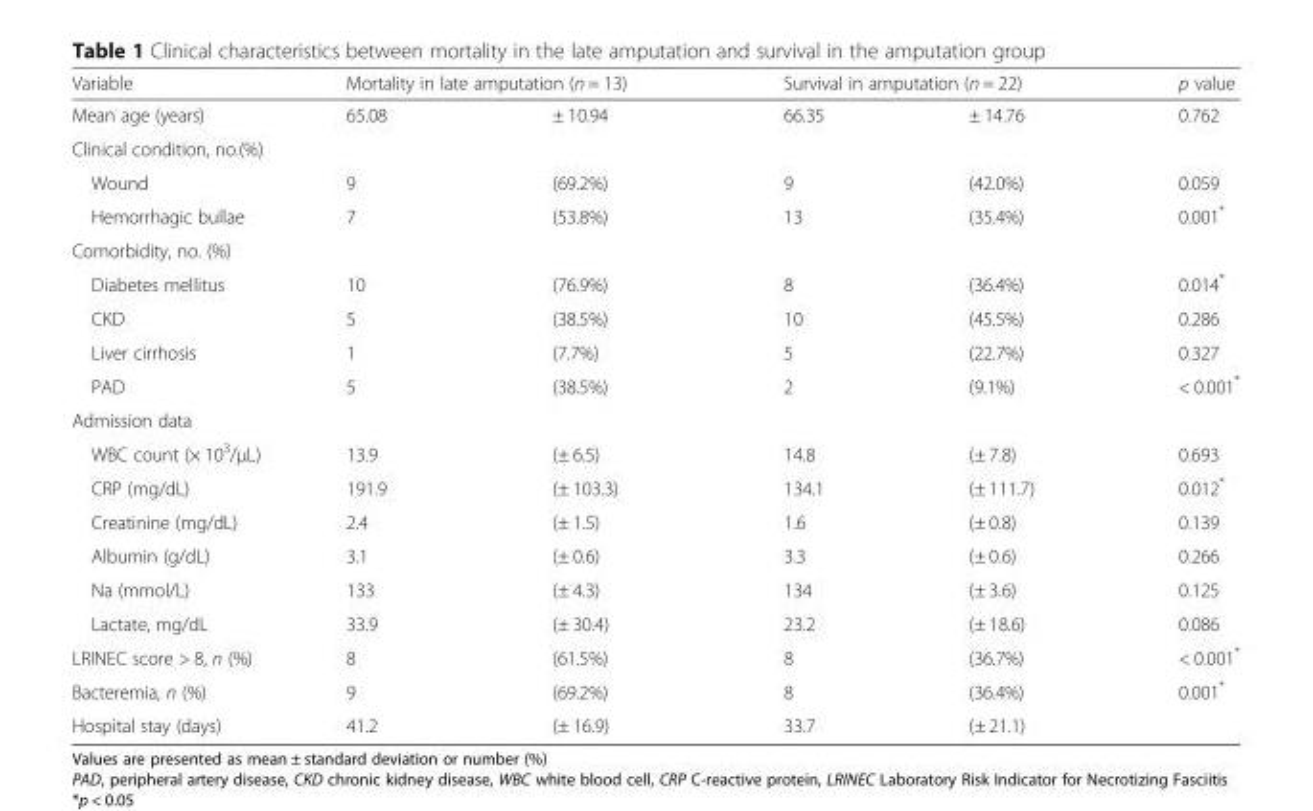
<table><thead><tr><td rowspan="2">Variable Mean age (years)</td><td colspan="2">Mortality in late amputation (n = 13)</td><td colspan="2">Survival in amputation (n = 22)</td><td rowspan="2">p value 0.762</td></tr><tr><td>65.08</td><td>± 10.94</td><td>66.35</td><td>± 14.76</td></tr></thead><tbody><tr><td colspan="6">Clinical condition, no.(%)</td></tr><tr><td>Wound</td><td>9</td><td>(69.2%)</td><td>9</td><td>(42.0%)</td><td>0.059</td></tr><tr><td>Hemorrhagic bullae</td><td>7</td><td>(53.8%)</td><td>13</td><td>(35.4%)</td><td>0.001*</td></tr><tr><td colspan="6">Comorbidity, no. (%)</td></tr><tr><td>Diabetes mellitus</td><td>10</td><td>(76.9%)</td><td>8</td><td>(36.4%)</td><td>0.014*</td></tr><tr><td>CKD</td><td>5</td><td>(38.5%)</td><td>10</td><td>(45.5%)</td><td>0.286</td></tr><tr><td>Liver cirrhosis</td><td>1</td><td>(7.7%)</td><td>5</td><td>(22.7%)</td><td>0.327</td></tr><tr><td>PAD</td><td>5</td><td>(38.5%)</td><td>2</td><td>(9.1%)</td><td>&lt; 0.001*</td></tr><tr><td colspan="6">Admission data</td></tr><tr><td>WBC count (× 10<sup>3</sup>/μL)</td><td>13.9</td><td>(± 6.5)</td><td>14.8</td><td>(± 7.8)</td><td>0.693</td></tr><tr><td>CRP (mg/dL)</td><td>191.9</td><td>(± 103.3)</td><td>134.1</td><td>(± 111.7)</td><td>0.012*</td></tr><tr><td>Creatinine (mg/dL)</td><td>2.4</td><td>(± 1.5)</td><td>1.6</td><td>(± 0.8)</td><td>0.139</td></tr><tr><td>Albumin (g/dL)</td><td>3.1</td><td>(± 0.6)</td><td>3.3</td><td>(± 0.6)</td><td>0.266</td></tr><tr><td>Na (mmol/L)</td><td>133</td><td>(± 4.3)</td><td>134</td><td>(± 3.6)</td><td>0.125</td></tr><tr><td>Lactate, mg/dL</td><td>33.9</td><td>(± 30.4)</td><td>23.2</td><td>(± 18.6)</td><td>0.086</td></tr><tr><td>LRINEC score &gt; 8, n (%)</td><td>8</td><td>(61.5%)</td><td>8</td><td>(36.7%)</td><td>&lt; 0.001*</td></tr><tr><td>Bacteremia, n (%)</td><td>9</td><td>(69.2%)</td><td>8</td><td>(36.4%)</td><td>0.001*</td></tr><tr><td>Hospital stay (days)</td><td>41.2</td><td>(± 16.9)</td><td>33.7</td><td>(± 21.1)</td><td></td></tr></tbody></table>